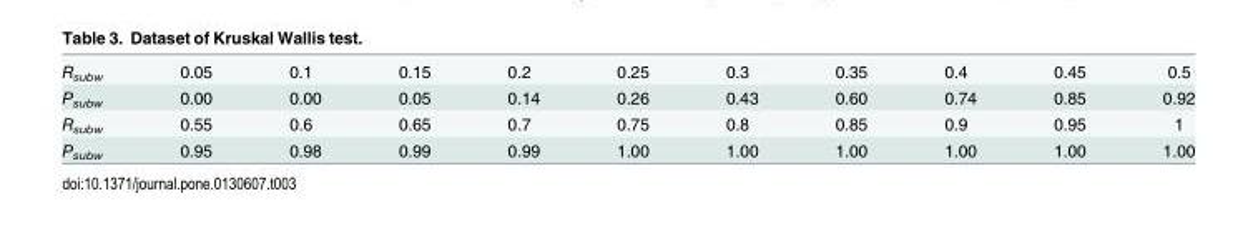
<table><tbody><tr><td>R<sub>subw</sub></td><td>0.05</td><td>0.1</td><td>0.15</td><td>0.2</td><td>0.25</td><td>0.3</td><td>0.35</td><td>0.4</td><td>0.45</td><td>0.5</td></tr><tr><td>P<sub>subw</sub></td><td>0.00</td><td>0.00</td><td>0.05</td><td>0.14</td><td>0.26</td><td>0.43</td><td>0.60</td><td>0.74</td><td>0.85</td><td>0.92</td></tr><tr><td>R<sub>subw</sub></td><td>0.55</td><td>0.6</td><td>0.65</td><td>0.7</td><td>0.75</td><td>0.8</td><td>0.85</td><td>0.9</td><td>0.95</td><td>1</td></tr><tr><td>P<sub>subw</sub></td><td>0.95</td><td>0.98</td><td>0.99</td><td>0.99</td><td>1.00</td><td>1.00</td><td>1.00</td><td>1.00</td><td>1.00</td><td>1.00</td></tr></tbody></table>